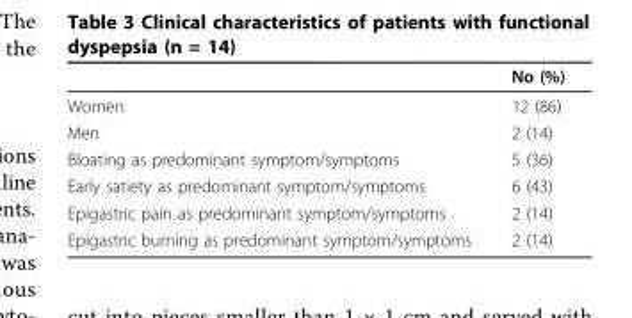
<table><thead><tr><td></td><td>No (%)</td></tr></thead><tbody><tr><td>Women</td><td>12 (86)</td></tr><tr><td>Men</td><td>2 (14)</td></tr><tr><td>Bloating as predominant symptom/symptoms</td><td>5 (36)</td></tr><tr><td>Early satiety as predominant symptom/symptoms</td><td>6 (43)</td></tr><tr><td>Epigastric pain as predominant symptom/symptoms</td><td>2 (14)</td></tr><tr><td>Epigastric burning as predominant symptom/symptoms</td><td>2 (14)</td></tr></tbody></table>